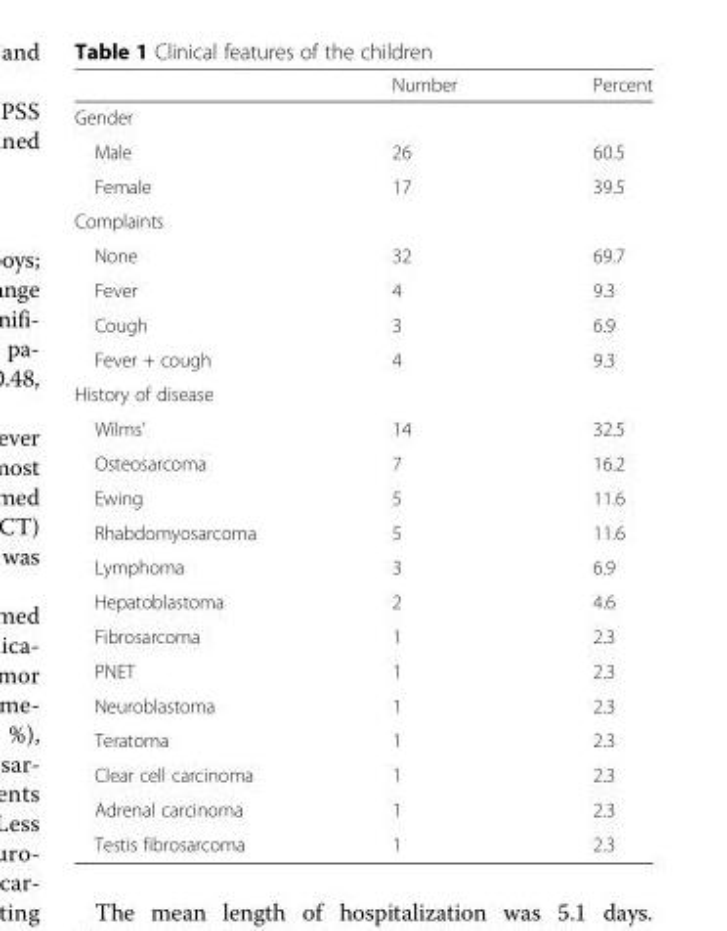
<table><thead><tr><td></td><td>Number</td><td>Percent</td></tr></thead><tbody><tr><td colspan="3">Gender</td></tr><tr><td>Male</td><td>26</td><td>60.5</td></tr><tr><td>Female</td><td>17</td><td>39.5</td></tr><tr><td colspan="3">Complaints</td></tr><tr><td>None</td><td>32</td><td>69.7</td></tr><tr><td>Fever</td><td>4</td><td>9.3</td></tr><tr><td>Cough</td><td>3</td><td>6.9</td></tr><tr><td>Fever + cough</td><td>4</td><td>9.3</td></tr><tr><td colspan="3">History of disease</td></tr><tr><td>Wilms’</td><td>14</td><td>32.5</td></tr><tr><td>Osteosarcoma</td><td>7</td><td>16.2</td></tr><tr><td>Ewing</td><td>5</td><td>11.6</td></tr><tr><td>Rhabdomyosarcoma</td><td>5</td><td>11.6</td></tr><tr><td>Lymphoma</td><td>3</td><td>6.9</td></tr><tr><td>Hepatoblastoma</td><td>2</td><td>4.6</td></tr><tr><td>Fibrosarcoma</td><td>1</td><td>2.3</td></tr><tr><td>PNET</td><td>1</td><td>2.3</td></tr><tr><td>Neuroblastoma</td><td>1</td><td>2.3</td></tr><tr><td>Teratoma</td><td>1</td><td>2.3</td></tr><tr><td>Clear cell carcinoma</td><td>1</td><td>2.3</td></tr><tr><td>Adrenal carcinoma</td><td>1</td><td>2.3</td></tr><tr><td>Testis fibrosarcoma</td><td>1</td><td>2.3</td></tr></tbody></table>